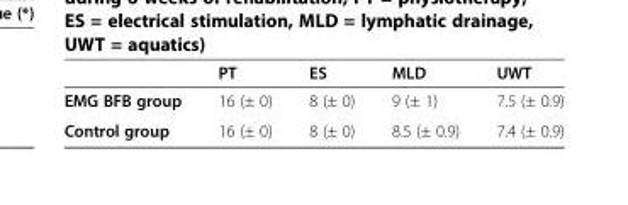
<table><thead><tr><td></td><td>PT</td><td>ES</td><td>MLD</td><td>UWT</td></tr></thead><tbody><tr><td>EMG BFB group</td><td>16 (± 0)</td><td>8 (± 0)</td><td>9 (± 1)</td><td>7.5 (± 0.9)</td></tr><tr><td>Control group</td><td>16 (± 0)</td><td>8 (± 0)</td><td>8.5 (± 0.9)</td><td>7.4 (± 0.9)</td></tr></tbody></table>